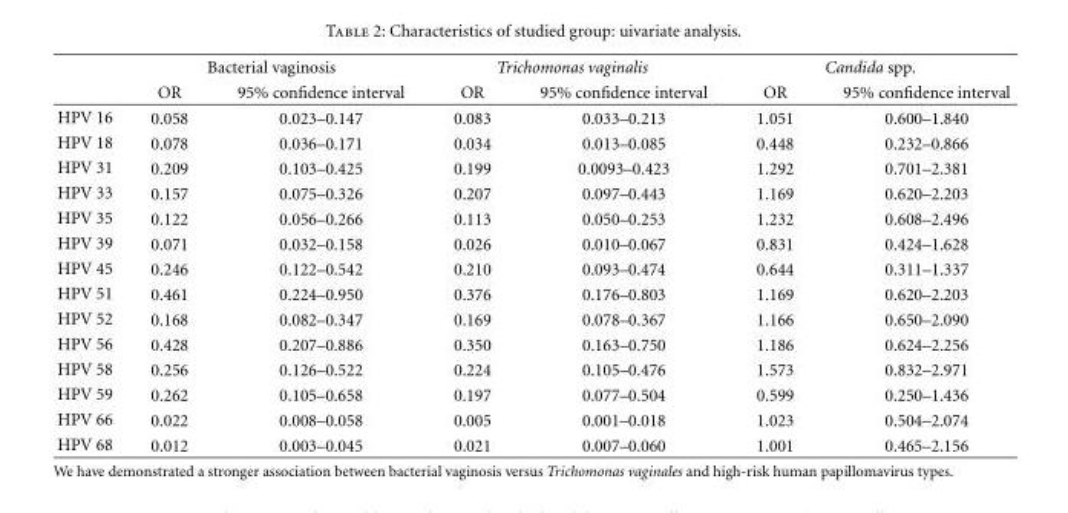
<table><thead><tr><td rowspan="2"></td><td colspan="2">Bacterial vaginosis</td><td colspan="2">Trichomonas vaginalis</td><td colspan="2">Candida spp.</td></tr><tr><td>OR</td><td>95% confidence interval</td><td>OR</td><td>95% confidence interval</td><td>OR</td><td>95% confidence interval</td></tr></thead><tbody><tr><td>HPV 16</td><td>0.058</td><td>0.023–0.147</td><td>0.083</td><td>0.033–0.213</td><td>1.051</td><td>0.600–1.840</td></tr><tr><td>HPV 18</td><td>0.078</td><td>0.036–0.171</td><td>0.034</td><td>0.013–0.085</td><td>0.448</td><td>0.232–0.866</td></tr><tr><td>HPV 31</td><td>0.209</td><td>0.103–0.425</td><td>0.199</td><td>0.0093–0.423</td><td>1.292</td><td>0.701–2.381</td></tr><tr><td>HPV 33</td><td>0.157</td><td>0.075–0.326</td><td>0.207</td><td>0.097–0.443</td><td>1.169</td><td>0.620–2.203</td></tr><tr><td>HPV 35</td><td>0.122</td><td>0.056–0.266</td><td>0.113</td><td>0.050–0.253</td><td>1.232</td><td>0.608–2.496</td></tr><tr><td>HPV 39</td><td>0.071</td><td>0.032–0.158</td><td>0.026</td><td>0.010–0.067</td><td>0.831</td><td>0.424–1.628</td></tr><tr><td>HPV 45</td><td>0.246</td><td>0.122–0.542</td><td>0.210</td><td>0.093–0.474</td><td>0.644</td><td>0.311–1.337</td></tr><tr><td>HPV 51</td><td>0.461</td><td>0.224–0.950</td><td>0.376</td><td>0.176–0.803</td><td>1.169</td><td>0.620–2.203</td></tr><tr><td>HPV 52</td><td>0.168</td><td>0.082–0.347</td><td>0.169</td><td>0.078–0.367</td><td>1.166</td><td>0.650–2.090</td></tr><tr><td>HPV 56</td><td>0.428</td><td>0.207–0.886</td><td>0.350</td><td>0.163–0.750</td><td>1.186</td><td>0.624–2.256</td></tr><tr><td>HPV 58</td><td>0.256</td><td>0.126–0.522</td><td>0.224</td><td>0.105–0.476</td><td>1.573</td><td>0.832–2.971</td></tr><tr><td>HPV 59</td><td>0.262</td><td>0.105–0.658</td><td>0.197</td><td>0.077–0.504</td><td>0.599</td><td>0.250–1.436</td></tr><tr><td>HPV 66</td><td>0.022</td><td>0.008–0.058</td><td>0.005</td><td>0.001–0.018</td><td>1.023</td><td>0.504–2.074</td></tr><tr><td>HPV 68</td><td>0.012</td><td>0.003–0.045</td><td>0.021</td><td>0.007–0.060</td><td>1.001</td><td>0.465–2.156</td></tr></tbody></table>